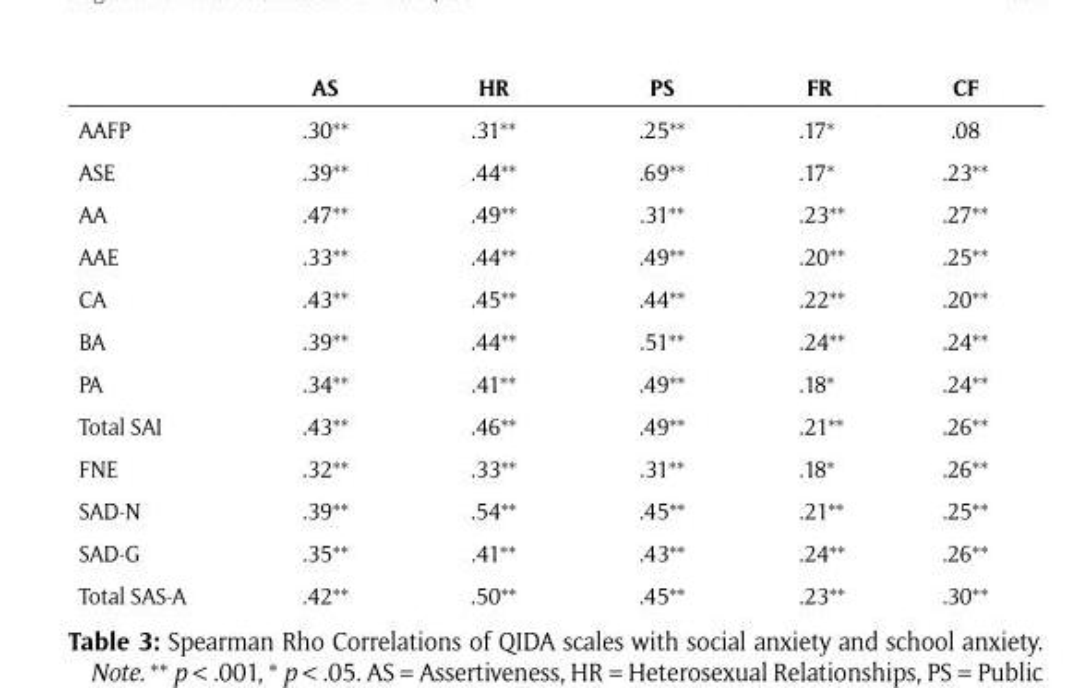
<table><thead><tr><td></td><td>AS</td><td>HR</td><td>PS</td><td>FR</td><td>CF</td></tr></thead><tbody><tr><td>AAFP</td><td>.30**</td><td>.31**</td><td>.25**</td><td>.17*</td><td>.08</td></tr><tr><td>ASE</td><td>.39**</td><td>.44**</td><td>.69**</td><td>.17*</td><td>.23**</td></tr><tr><td>AA</td><td>.47**</td><td>.49**</td><td>.31**</td><td>.23**</td><td>.27**</td></tr><tr><td>AAE</td><td>.33**</td><td>.44**</td><td>.49**</td><td>.20**</td><td>.25**</td></tr><tr><td>CA</td><td>.43**</td><td>.45**</td><td>.44**</td><td>.22**</td><td>.20**</td></tr><tr><td>BA</td><td>.39**</td><td>.44**</td><td>.51**</td><td>.24**</td><td>.24**</td></tr><tr><td>PA</td><td>.34**</td><td>.41**</td><td>.49**</td><td>.18*</td><td>.24**</td></tr><tr><td>Total SAI</td><td>.43**</td><td>.46**</td><td>.49**</td><td>.21**</td><td>.26**</td></tr><tr><td>FNE</td><td>.32**</td><td>.33**</td><td>.31**</td><td>.18*</td><td>.26**</td></tr><tr><td>SAD-N</td><td>.39**</td><td>.54**</td><td>.45**</td><td>.21**</td><td>.25**</td></tr><tr><td>SAD-G</td><td>.35**</td><td>.41**</td><td>.43**</td><td>.24**</td><td>.26**</td></tr><tr><td>Total SAS-A</td><td>.42**</td><td>.50**</td><td>.45**</td><td>.23**</td><td>.30**</td></tr></tbody></table>